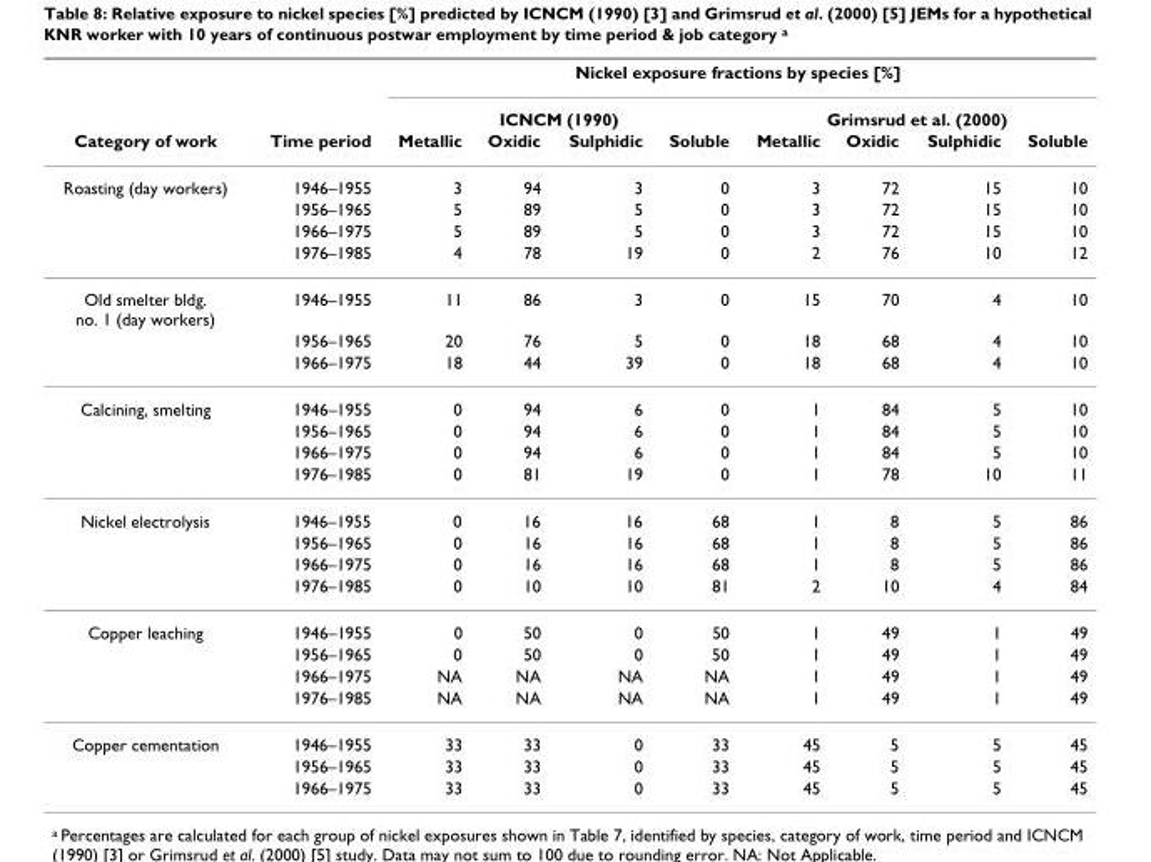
<table><thead><tr><td rowspan="3">Category of work</td><td rowspan="3">Time period</td><td colspan="8">Nickel exposure fractions by species [%]</td></tr><tr><td colspan="4">ICNCM (1990)</td><td colspan="4">Grimsrud et al. (2000)</td></tr><tr><td>Metallic</td><td>Oxidic</td><td>Sulphidic</td><td>Soluble</td><td>Metallic</td><td>Oxidic</td><td>Sulphidic</td><td>Soluble</td></tr></thead><tbody><tr><td rowspan="4">Roasting (day workers)</td><td>1946–1955</td><td>3</td><td>94</td><td>3</td><td>0</td><td>3</td><td>72</td><td>15</td><td>10</td></tr><tr><td>1956–1965</td><td>5</td><td>89</td><td>5</td><td>0</td><td>3</td><td>72</td><td>15</td><td>10</td></tr><tr><td>1966–1975</td><td>5</td><td>89</td><td>5</td><td>0</td><td>3</td><td>72</td><td>15</td><td>10</td></tr><tr><td>1976–1985</td><td>4</td><td>78</td><td>19</td><td>0</td><td>2</td><td>76</td><td>10</td><td>12</td></tr><tr><td rowspan="3">Old smelter bldg. no. 1 (day workers)</td><td>1946–1955</td><td>11</td><td>86</td><td>3</td><td>0</td><td>15</td><td>70</td><td>4</td><td>10</td></tr><tr><td>1956–1965</td><td>20</td><td>76</td><td>5</td><td>0</td><td>18</td><td>68</td><td>4</td><td>10</td></tr><tr><td>1966–1975</td><td>18</td><td>44</td><td>39</td><td>0</td><td>18</td><td>68</td><td>4</td><td>10</td></tr><tr><td rowspan="4">Calcining, smelting</td><td>1946–1955</td><td>0</td><td>94</td><td>6</td><td>0</td><td>1</td><td>84</td><td>5</td><td>10</td></tr><tr><td>1956–1965</td><td>0</td><td>94</td><td>6</td><td>0</td><td>1</td><td>84</td><td>5</td><td>10</td></tr><tr><td>1966–1975</td><td>0</td><td>94</td><td>6</td><td>0</td><td>1</td><td>84</td><td>5</td><td>10</td></tr><tr><td>1976–1985</td><td>0</td><td>81</td><td>19</td><td>0</td><td>1</td><td>78</td><td>10</td><td>11</td></tr><tr><td rowspan="4">Nickel electrolysis</td><td>1946–1955</td><td>0</td><td>16</td><td>16</td><td>68</td><td>1</td><td>8</td><td>5</td><td>86</td></tr><tr><td>1956–1965</td><td>0</td><td>16</td><td>16</td><td>68</td><td>1</td><td>8</td><td>5</td><td>86</td></tr><tr><td>1966–1975</td><td>0</td><td>16</td><td>16</td><td>68</td><td>1</td><td>8</td><td>5</td><td>86</td></tr><tr><td>1976–1985</td><td>0</td><td>10</td><td>10</td><td>81</td><td>2</td><td>10</td><td>4</td><td>84</td></tr><tr><td rowspan="4">Copper leaching</td><td>1946–1955</td><td>0</td><td>50</td><td>0</td><td>50</td><td>1</td><td>49</td><td>1</td><td>49</td></tr><tr><td>1956–1965</td><td>0</td><td>50</td><td>0</td><td>50</td><td>1</td><td>49</td><td>1</td><td>49</td></tr><tr><td>1966–1975</td><td>NA</td><td>NA</td><td>NA</td><td>NA</td><td>1</td><td>49</td><td>1</td><td>49</td></tr><tr><td>1976–1985</td><td>NA</td><td>NA</td><td>NA</td><td>NA</td><td>1</td><td>49</td><td>1</td><td>49</td></tr><tr><td rowspan="3">Copper cementation</td><td>1946–1955</td><td>33</td><td>33</td><td>0</td><td>33</td><td>45</td><td>5</td><td>5</td><td>45</td></tr><tr><td>1956–1965</td><td>33</td><td>33</td><td>0</td><td>33</td><td>45</td><td>5</td><td>5</td><td>45</td></tr><tr><td>1966–1975</td><td>33</td><td>33</td><td>0</td><td>33</td><td>45</td><td>5</td><td>5</td><td>45</td></tr></tbody></table>